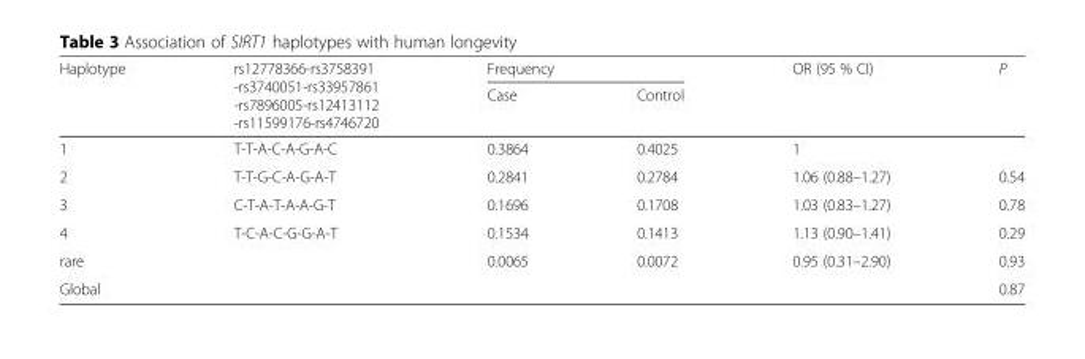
<table><thead><tr><td rowspan="2">Haplotype</td><td rowspan="2">rs12778366-rs3758391 -rs3740051-rs33957861 -rs7896005-rs12413112 -rs11599176-rs4746720</td><td colspan="2">Frequency</td><td rowspan="2">OR (95 % CI)</td><td rowspan="2">P</td></tr><tr><td>Case</td><td>Control</td></tr></thead><tbody><tr><td>1</td><td>T-T-A-C-A-G-A-C</td><td>0.3864</td><td>0.4025</td><td>1</td><td></td></tr><tr><td>2</td><td>T-T-G-C-A-G-A-T</td><td>0.2841</td><td>0.2784</td><td>1.06 (0.88–1.27)</td><td>0.54</td></tr><tr><td>3</td><td>C-T-A-T-A-A-G-T</td><td>0.1696</td><td>0.1708</td><td>1.03 (0.83–1.27)</td><td>0.78</td></tr><tr><td>4</td><td>T-C-A-C-G-G-A-T</td><td>0.1534</td><td>0.1413</td><td>1.13 (0.90–1.41)</td><td>0.29</td></tr><tr><td>rare</td><td></td><td>0.0065</td><td>0.0072</td><td>0.95 (0.31–2.90)</td><td>0.93</td></tr><tr><td>Global</td><td></td><td></td><td></td><td></td><td>0.87</td></tr></tbody></table>